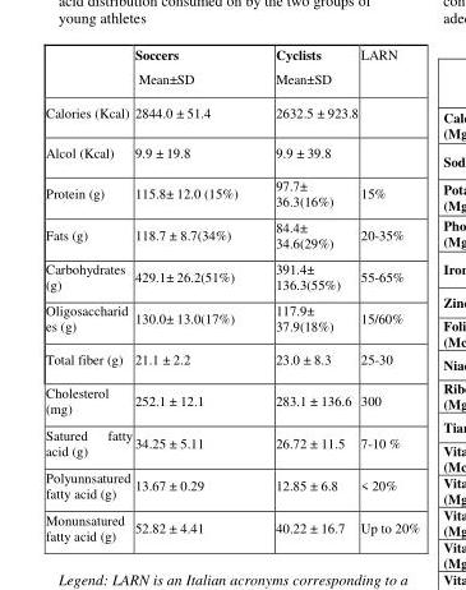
<table><thead><tr><td></td><td>Soccers Mean±SD</td><td>Cyclists Mean±SD</td><td>LARN</td></tr></thead><tbody><tr><td>Calories (Kcal)</td><td>2844.0 ± 51.4</td><td>2632.5 ± 923.8</td><td></td></tr><tr><td>Alcol (Kcal)</td><td>9.9 ± 19.8</td><td>9.9 ± 39.8</td><td></td></tr><tr><td>Protein (g)</td><td>115.8± 12.0 (15%)</td><td>97.7± 36.3(16%)</td><td>15%</td></tr><tr><td>Fats (g)</td><td>118.7 ± 8.7(34%)</td><td>84.4± 34.6(29%)</td><td>20-35%</td></tr><tr><td>Carbohydrates (g)</td><td>429.1± 26.2(51%)</td><td>391.4± 136.3(55%)</td><td>55-65%</td></tr><tr><td>Oligosaccharid es (g)</td><td>130.0± 13.0(17%)</td><td>117.9± 37.9(18%)</td><td>15/60%</td></tr><tr><td>Total fiber (g)</td><td>21.1 ± 2.2</td><td>23.0 ± 8.3</td><td>25-30</td></tr><tr><td>Cholesterol (mg)</td><td>252.1 ± 12.1</td><td>283.1 ± 136.6</td><td>300</td></tr><tr><td>Satured fatty acid (g)</td><td>34.25 ± 5.11</td><td>26.72 ± 11.5</td><td>7-10 %</td></tr><tr><td>Polyunnsatured fatty acid (g)</td><td>13.67 ± 0.29</td><td>12.85 ± 6.8</td><td>&lt; 20%</td></tr><tr><td>Monunsatured fatty acid (g)</td><td>52.82 ± 4.41</td><td>40.22 ± 16.7</td><td>Up to 20%</td></tr></tbody></table>